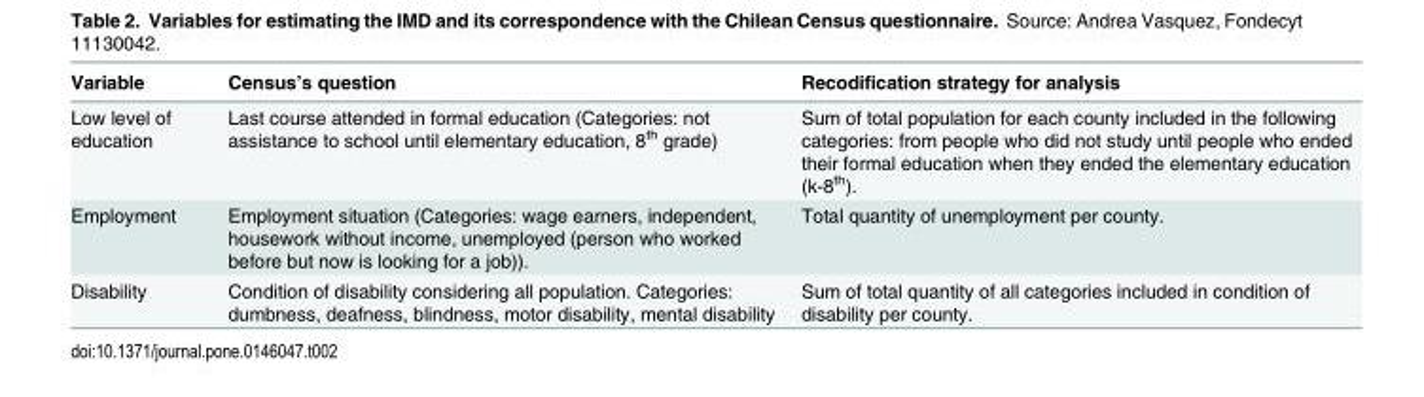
<table><thead><tr><td>Variable</td><td>Census’s question</td><td>Recodification strategy for analysis</td></tr></thead><tbody><tr><td>Low level of education</td><td>Last course attended in formal education (Categories: not assistance to school until elementary education, 8<sup>th</sup> grade)</td><td>Sum of total population for each county included in the following categories: from people who did not study until people who ended their formal education when they ended the elementary education (k-8<sup>th</sup>).</td></tr><tr><td>Employment</td><td>Employment situation (Categories: wage earners, independent, housework without income, unemployed (person who worked before but now is looking for a job)).</td><td>Total quantity of unemployment per county.</td></tr><tr><td>Disability</td><td>Condition of disability considering all population. Categories: dumbness, deafness, blindness, motor disability, mental disability</td><td>Sum of total quantity of all categories included in condition of disability per county.</td></tr></tbody></table>